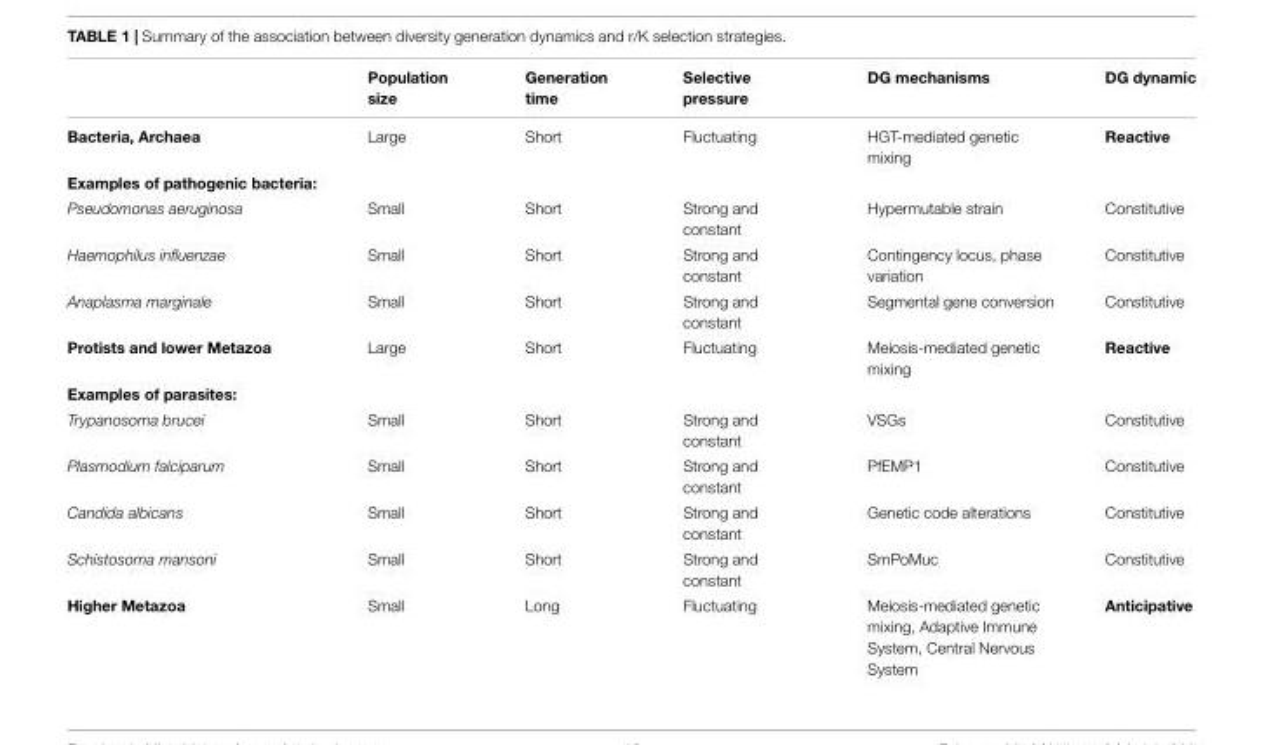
<table><thead><tr><td></td><td>Population size</td><td>Generation time</td><td>Selective pressure</td><td>DG mechanisms</td><td>DG dynamic</td></tr></thead><tbody><tr><td>Bacteria, Archaea</td><td>Large</td><td>Short</td><td>Fluctuating</td><td>HGT-mediated genetic mixing</td><td>Reactive</td></tr><tr><td colspan="6">Examples of pathogenic bacteria:</td></tr><tr><td>Pseudomonas aeruginosa</td><td>Small</td><td>Short</td><td>Strong and constant</td><td>Hypermutable strain</td><td>Constitutive</td></tr><tr><td>Haemophilus influenzae</td><td>Small</td><td>Short</td><td>Strong and constant</td><td>Contingency locus, phase variation</td><td>Constitutive</td></tr><tr><td>Anaplasma marginale</td><td>Small</td><td>Short</td><td>Strong and constant</td><td>Segmental gene conversion</td><td>Constitutive</td></tr><tr><td>Protists and lower Metazoa</td><td>Large</td><td>Short</td><td>Fluctuating</td><td>Meiosis-mediated genetic mixing</td><td>Reactive</td></tr><tr><td colspan="6">Examples of parasites:</td></tr><tr><td>Trypanosoma brucei</td><td>Small</td><td>Short</td><td>Strong and constant</td><td>VSGs</td><td>Constitutive</td></tr><tr><td>Plasmodium falciparum</td><td>Small</td><td>Short</td><td>Strong and constant</td><td>PfEMP1</td><td>Constitutive</td></tr><tr><td>Candida albicans</td><td>Small</td><td>Short</td><td>Strong and constant</td><td>Genetic code alterations</td><td>Constitutive</td></tr><tr><td>Schistosoma mansoni</td><td>Small</td><td>Short</td><td>Strong and constant</td><td>SmPoMuc</td><td>Constitutive</td></tr><tr><td>Higher Metazoa</td><td>Small</td><td>Long</td><td>Fluctuating</td><td>Meiosis-mediated genetic mixing, Adaptive Immune System, Central Nervous System</td><td>Anticipative</td></tr></tbody></table>